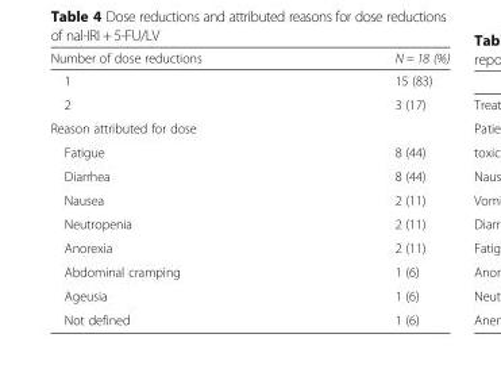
<table><thead><tr><td>Number of dose reductions</td><td>N = 18 (%)</td></tr></thead><tbody><tr><td>1</td><td>15 (83)</td></tr><tr><td>2</td><td>3 (17)</td></tr><tr><td colspan="2">Reason attributed for dose</td></tr><tr><td>Fatigue</td><td>8 (44)</td></tr><tr><td>Diarrhea</td><td>8 (44)</td></tr><tr><td>Nausea</td><td>2 (11)</td></tr><tr><td>Neutropenia</td><td>2 (11)</td></tr><tr><td>Anorexia</td><td>2 (11)</td></tr><tr><td>Abdominal cramping</td><td>1 (6)</td></tr><tr><td>Ageusia</td><td>1 (6)</td></tr><tr><td>Not defined</td><td>1 (6)</td></tr></tbody></table>